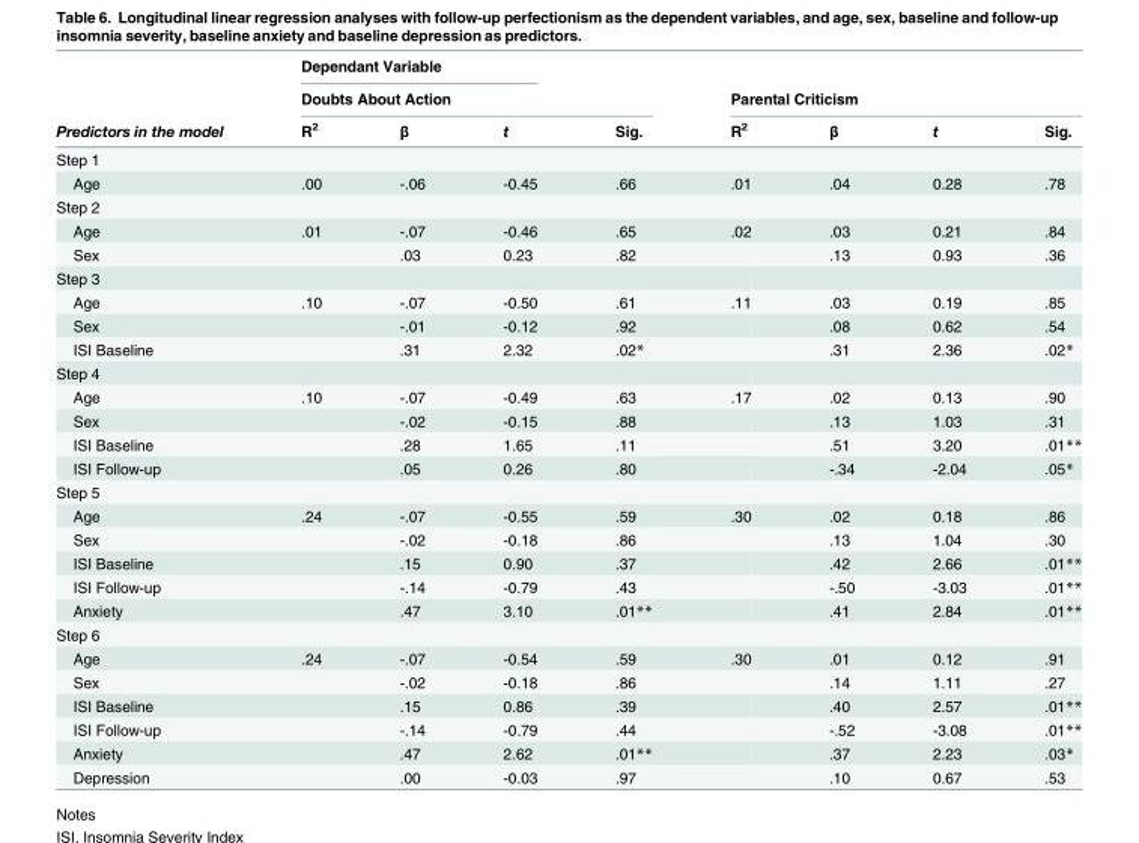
<table><thead><tr><td rowspan="3">Predictors in the model</td><td colspan="3">Dependant Variable</td><td></td><td></td><td></td><td></td><td></td></tr><tr><td colspan="4">Doubts About Action</td><td colspan="4">Parental Criticism</td></tr><tr><td>R<sup>2</sup></td><td>β</td><td>t</td><td>Sig.</td><td>R<sup>2</sup></td><td>β</td><td>t</td><td>Sig.</td></tr></thead><tbody><tr><td colspan="9">Step 1</td></tr><tr><td>Age</td><td>.00</td><td>-.06</td><td>-0.45</td><td>.66</td><td>.01</td><td>.04</td><td>0.28</td><td>.78</td></tr><tr><td colspan="9">Step 2</td></tr><tr><td>Age</td><td>.01</td><td>-.07</td><td>-0.46</td><td>.65</td><td>.02</td><td>.03</td><td>0.21</td><td>.84</td></tr><tr><td>Sex</td><td></td><td>.03</td><td>0.23</td><td>.82</td><td></td><td>.13</td><td>0.93</td><td>.36</td></tr><tr><td colspan="9">Step 3</td></tr><tr><td>Age</td><td>.10</td><td>-.07</td><td>-0.50</td><td>.61</td><td>.11</td><td>.03</td><td>0.19</td><td>.85</td></tr><tr><td>Sex</td><td></td><td>-.01</td><td>-0.12</td><td>.92</td><td></td><td>.08</td><td>0.62</td><td>.54</td></tr><tr><td>ISI Baseline</td><td></td><td>.31</td><td>2.32</td><td>.02*</td><td></td><td>.31</td><td>2.36</td><td>.02*</td></tr><tr><td colspan="9">Step 4</td></tr><tr><td>Age</td><td>.10</td><td>-.07</td><td>-0.49</td><td>.63</td><td>.17</td><td>.02</td><td>0.13</td><td>.90</td></tr><tr><td>Sex</td><td></td><td>-.02</td><td>-0.15</td><td>.88</td><td></td><td>.13</td><td>1.03</td><td>.31</td></tr><tr><td>ISI Baseline</td><td></td><td>.28</td><td>1.65</td><td>.11</td><td></td><td>.51</td><td>3.20</td><td>.01**</td></tr><tr><td>ISI Follow-up</td><td></td><td>.05</td><td>0.26</td><td>.80</td><td></td><td>-.34</td><td>-2.04</td><td>.05*</td></tr><tr><td colspan="9">Step 5</td></tr><tr><td>Age</td><td>.24</td><td>-.07</td><td>-0.55</td><td>.59</td><td>.30</td><td>.02</td><td>0.18</td><td>.86</td></tr><tr><td>Sex</td><td></td><td>-.02</td><td>-0.18</td><td>.86</td><td></td><td>.13</td><td>1.04</td><td>.30</td></tr><tr><td>ISI Baseline</td><td></td><td>.15</td><td>0.90</td><td>.37</td><td></td><td>.42</td><td>2.66</td><td>.01**</td></tr><tr><td>ISI Follow-up</td><td></td><td>-.14</td><td>-0.79</td><td>.43</td><td></td><td>-.50</td><td>-3.03</td><td>.01**</td></tr><tr><td>Anxiety</td><td></td><td>.47</td><td>3.10</td><td>.01**</td><td></td><td>.41</td><td>2.84</td><td>.01**</td></tr><tr><td colspan="9">Step 6</td></tr><tr><td>Age</td><td>.24</td><td>-.07</td><td>-0.54</td><td>.59</td><td>.30</td><td>.01</td><td>0.12</td><td>.91</td></tr><tr><td>Sex</td><td></td><td>-.02</td><td>-0.18</td><td>.86</td><td></td><td>.14</td><td>1.11</td><td>.27</td></tr><tr><td>ISI Baseline</td><td></td><td>.15</td><td>0.86</td><td>.39</td><td></td><td>.40</td><td>2.57</td><td>.01**</td></tr><tr><td>ISI Follow-up</td><td></td><td>-.14</td><td>-0.79</td><td>.44</td><td></td><td>-.52</td><td>-3.08</td><td>.01**</td></tr><tr><td>Anxiety</td><td></td><td>.47</td><td>2.62</td><td>.01**</td><td></td><td>.37</td><td>2.23</td><td>.03*</td></tr><tr><td>Depression</td><td></td><td>.00</td><td>-0.03</td><td>.97</td><td></td><td>.10</td><td>0.67</td><td>.53</td></tr></tbody></table>